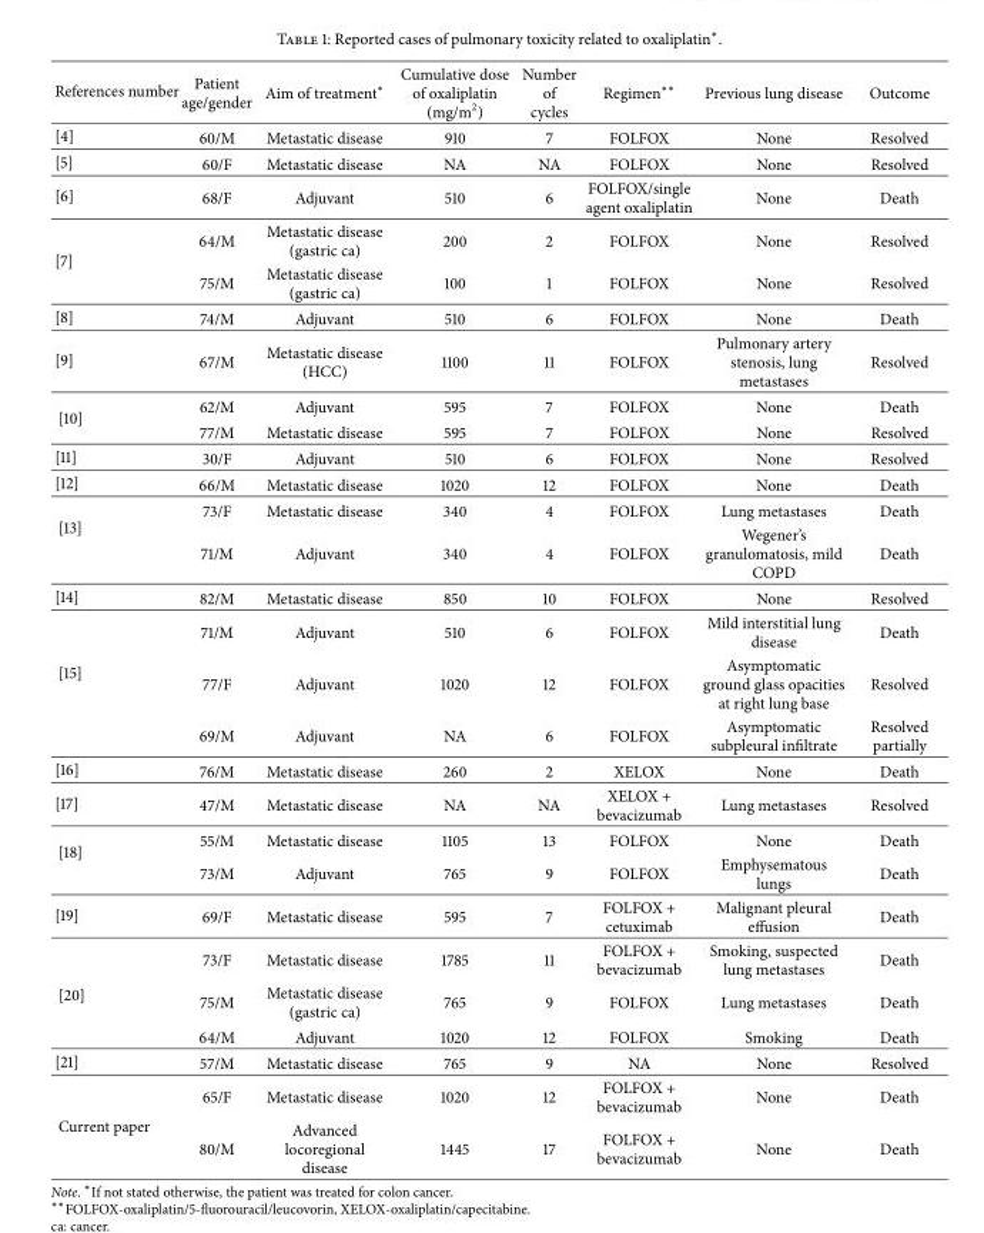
<table><thead><tr><td>References number</td><td>Patient age/gender</td><td>Aim of treatment∗</td><td>Cumulative dose of oxaliplatin (mg/m<sup>2</sup>)</td><td>Number of cycles</td><td>Regimen∗∗</td><td>Previous lung disease</td><td>Outcome</td></tr></thead><tbody><tr><td>[4]</td><td>60/M</td><td>Metastatic disease</td><td>910</td><td>7</td><td>FOLFOX</td><td>None</td><td>Resolved</td></tr><tr><td>[5]</td><td>60/F</td><td>Metastatic disease</td><td>NA</td><td>NA</td><td>FOLFOX</td><td>None</td><td>Resolved</td></tr><tr><td>[6]</td><td>68/F</td><td>Adjuvant</td><td>510</td><td>6</td><td>FOLFOX/single agent oxaliplatin</td><td>None</td><td>Death</td></tr><tr><td rowspan="2">[7]</td><td>64/M</td><td>Metastatic disease (gastric ca)</td><td>200</td><td>2</td><td>FOLFOX</td><td>None</td><td>Resolved</td></tr><tr><td>75/M</td><td>Metastatic disease (gastric ca)</td><td>100</td><td>1</td><td>FOLFOX</td><td>None</td><td>Resolved</td></tr><tr><td>[8]</td><td>74/M</td><td>Adjuvant</td><td>510</td><td>6</td><td>FOLFOX</td><td>None</td><td>Death</td></tr><tr><td>[9]</td><td>67/M</td><td>Metastatic disease (HCC)</td><td>1100</td><td>11</td><td>FOLFOX</td><td>Pulmonary artery stenosis, lung metastases</td><td>Resolved</td></tr><tr><td rowspan="2">[10]</td><td>62/M</td><td>Adjuvant</td><td>595</td><td>7</td><td>FOLFOX</td><td>None</td><td>Death</td></tr><tr><td>77/M</td><td>Metastatic disease</td><td>595</td><td>7</td><td>FOLFOX</td><td>None</td><td>Resolved</td></tr><tr><td>[11]</td><td>30/F</td><td>Adjuvant</td><td>510</td><td>6</td><td>FOLFOX</td><td>None</td><td>Resolved</td></tr><tr><td>[12]</td><td>66/M</td><td>Metastatic disease</td><td>1020</td><td>12</td><td>FOLFOX</td><td>None</td><td>Death</td></tr><tr><td rowspan="2">[13]</td><td>73/F</td><td>Metastatic disease</td><td>340</td><td>4</td><td>FOLFOX</td><td>Lung metastases</td><td>Death</td></tr><tr><td>71/M</td><td>Adjuvant</td><td>340</td><td>4</td><td>FOLFOX</td><td>Wegener’s granulomatosis, mild COPD</td><td>Death</td></tr><tr><td>[14]</td><td>82/M</td><td>Metastatic disease</td><td>850</td><td>10</td><td>FOLFOX</td><td>None</td><td>Resolved</td></tr><tr><td rowspan="3">[15]</td><td>71/M</td><td>Adjuvant</td><td>510</td><td>6</td><td>FOLFOX</td><td>Mild interstitial lung disease</td><td>Death</td></tr><tr><td>77/F</td><td>Adjuvant</td><td>1020</td><td>12</td><td>FOLFOX</td><td>Asymptomatic ground glass opacities at right lung base</td><td>Resolved</td></tr><tr><td>69/M</td><td>Adjuvant</td><td>NA</td><td>6</td><td>FOLFOX</td><td>Asymptomatic subpleural infiltrate</td><td>Resolved partially</td></tr><tr><td>[16]</td><td>76/M</td><td>Metastatic disease</td><td>260</td><td>2</td><td>XELOX</td><td>None</td><td>Death</td></tr><tr><td>[17]</td><td>47/M</td><td>Metastatic disease</td><td>NA</td><td>NA</td><td>XELOX + bevacizumab</td><td>Lung metastases</td><td>Resolved</td></tr><tr><td rowspan="2">[18]</td><td>55/M</td><td>Metastatic disease</td><td>1105</td><td>13</td><td>FOLFOX</td><td>None</td><td>Death</td></tr><tr><td>73/M</td><td>Adjuvant</td><td>765</td><td>9</td><td>FOLFOX</td><td>Emphysematous lungs</td><td>Death</td></tr><tr><td>[19]</td><td>69/F</td><td>Metastatic disease</td><td>595</td><td>7</td><td>FOLFOX + cetuximab</td><td>Malignant pleural effusion</td><td>Death</td></tr><tr><td rowspan="3">[20]</td><td>73/F</td><td>Metastatic disease</td><td>1785</td><td>11</td><td>FOLFOX + bevacizumab</td><td>Smoking, suspected lung metastases</td><td>Death</td></tr><tr><td>75/M</td><td>Metastatic disease (gastric ca)</td><td>765</td><td>9</td><td>FOLFOX</td><td>Lung metastases</td><td>Death</td></tr><tr><td>64/M</td><td>Adjuvant</td><td>1020</td><td>12</td><td>FOLFOX</td><td>Smoking</td><td>Death</td></tr><tr><td>[21]</td><td>57/M</td><td>Metastatic disease</td><td>765</td><td>9</td><td>NA</td><td>None</td><td>Resolved</td></tr><tr><td rowspan="2">Current paper</td><td>65/F</td><td>Metastatic disease</td><td>1020</td><td>12</td><td>FOLFOX + bevacizumab</td><td>None</td><td>Death</td></tr><tr><td>80/M</td><td>Advanced locoregional disease</td><td>1445</td><td>17</td><td>FOLFOX + bevacizumab</td><td>None</td><td>Death</td></tr></tbody></table>